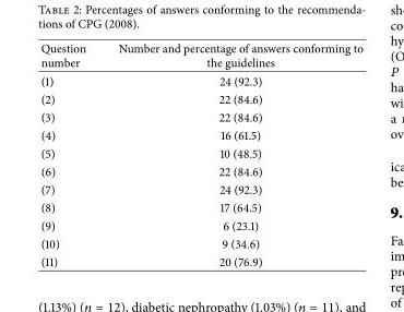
<table><thead><tr><td>Question number</td><td>Number and percentage of answers conforming to the guidelines</td></tr></thead><tbody><tr><td>(1)</td><td>24 (92.3)</td></tr><tr><td>(2)</td><td>22 (84.6)</td></tr><tr><td>(3)</td><td>22 (84.6)</td></tr><tr><td>(4)</td><td>16 (61.5)</td></tr><tr><td>(5)</td><td>10 (48.5)</td></tr><tr><td>(6)</td><td>22 (84.6)</td></tr><tr><td>(7)</td><td>24 (92.3)</td></tr><tr><td>(8)</td><td>17 (64.5)</td></tr><tr><td>(9)</td><td>6 (23.1)</td></tr><tr><td>(10)</td><td>9 (34.6)</td></tr><tr><td>(11)</td><td>20 (76.9)</td></tr></tbody></table>